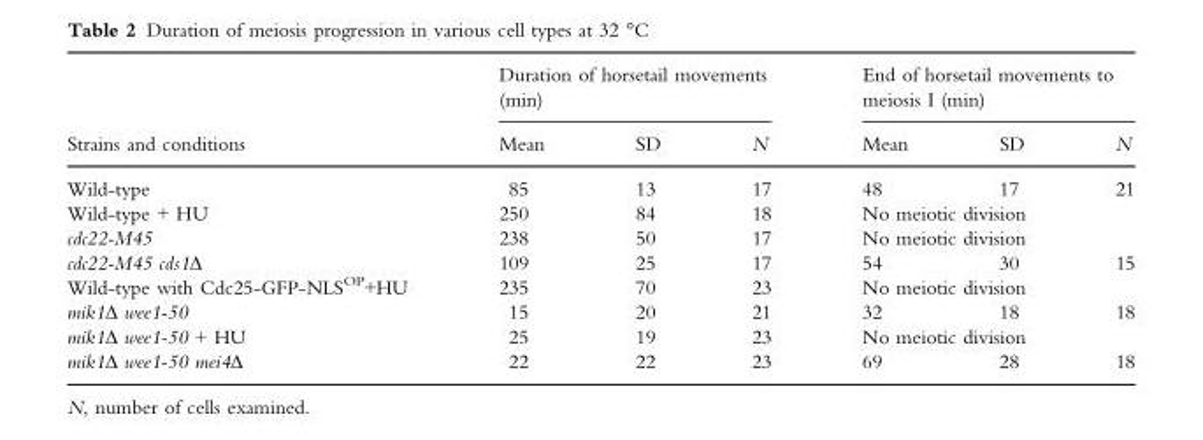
<table><thead><tr><td rowspan="2">Strains and conditions</td><td colspan="3">Duration of horsetail movements (min)</td><td colspan="3">End of horsetail movements to meiosis I (min)</td></tr><tr><td>Mean</td><td>SD</td><td>N</td><td>Mean</td><td>SD</td><td>N</td></tr></thead><tbody><tr><td>Wild-type</td><td>85</td><td>13</td><td>17</td><td>48</td><td>17</td><td>21</td></tr><tr><td>Wild-type + HU</td><td>250</td><td>84</td><td>18</td><td colspan="3">No meiotic division</td></tr><tr><td>cdc22-M45</td><td>238</td><td>50</td><td>17</td><td colspan="3">No meiotic division</td></tr><tr><td>cdc22-M45 cds1Δ</td><td>109</td><td>25</td><td>17</td><td>54</td><td>30</td><td>15</td></tr><tr><td>Wild-type with Cdc25-GFP-NLS<sup>OP</sup>+HU</td><td>235</td><td>70</td><td>23</td><td colspan="3">No meiotic division</td></tr><tr><td>mik1Δ wee1-50</td><td>15</td><td>20</td><td>21</td><td>32</td><td>18</td><td>18</td></tr><tr><td>mik1Δ wee1-50 + HU</td><td>25</td><td>19</td><td>23</td><td colspan="3">No meiotic division</td></tr><tr><td>mik1Δ wee1-50 mei4Δ</td><td>22</td><td>22</td><td>23</td><td>69</td><td>28</td><td>18</td></tr></tbody></table>